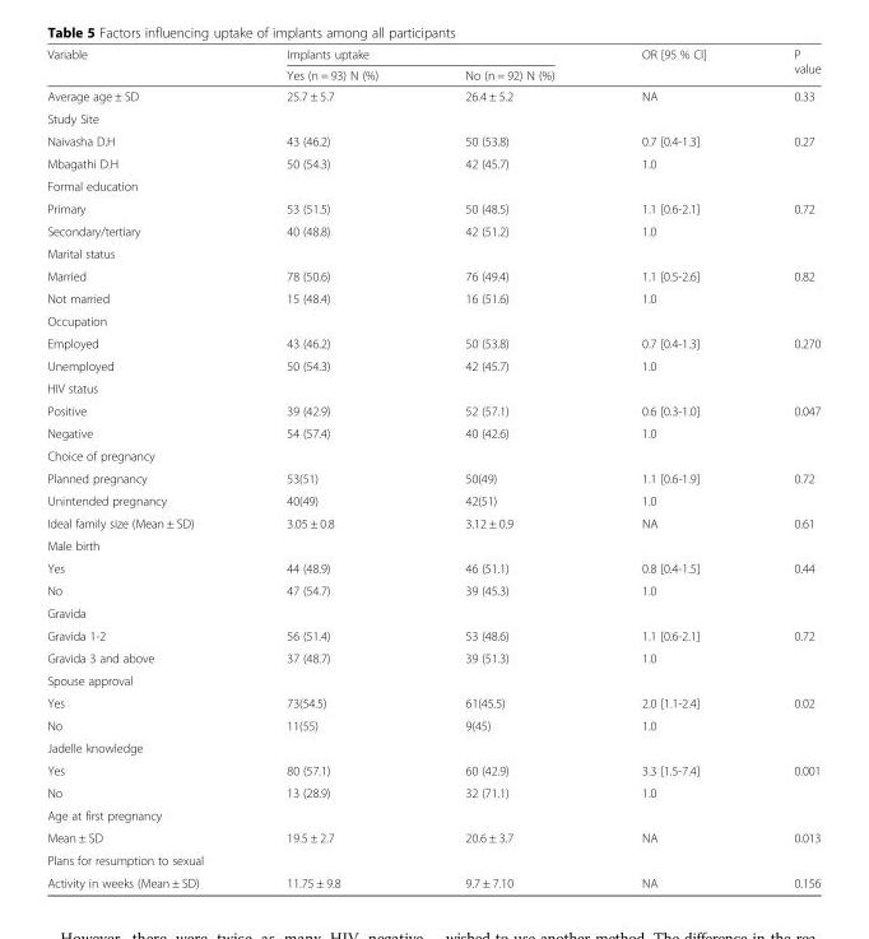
<table><thead><tr><td rowspan="2">Variable</td><td colspan="2">Implants uptake</td><td rowspan="2">OR [95 % CI]</td><td rowspan="2">P value</td></tr><tr><td>Yes (n = 93) N (%)</td><td>No (n = 92) N (%)</td></tr></thead><tbody><tr><td>Average age ± SD</td><td>25.7 ± 5.7</td><td>26.4 ± 5.2</td><td>NA</td><td>0.33</td></tr><tr><td colspan="5">Study Site</td></tr><tr><td>Naivasha D.H</td><td>43 (46.2)</td><td>50 (53.8)</td><td>0.7 [0.4-1.3]</td><td>0.27</td></tr><tr><td>Mbagathi D.H</td><td>50 (54.3)</td><td>42 (45.7)</td><td>1.0</td><td></td></tr><tr><td colspan="5">Formal education</td></tr><tr><td>Primary</td><td>53 (51.5)</td><td>50 (48.5)</td><td>1.1 [0.6-2.1]</td><td>0.72</td></tr><tr><td>Secondary/tertiary</td><td>40 (48.8)</td><td>42 (51.2)</td><td>1.0</td><td></td></tr><tr><td colspan="5">Marital status</td></tr><tr><td>Married</td><td>78 (50.6)</td><td>76 (49.4)</td><td>1.1 [0.5-2.6]</td><td>0.82</td></tr><tr><td>Not married</td><td>15 (48.4)</td><td>16 (51.6)</td><td>1.0</td><td></td></tr><tr><td colspan="5">Occupation</td></tr><tr><td>Employed</td><td>43 (46.2)</td><td>50 (53.8)</td><td>0.7 [0.4-1.3]</td><td>0.270</td></tr><tr><td>Unemployed</td><td>50 (54.3)</td><td>42 (45.7)</td><td>1.0</td><td></td></tr><tr><td colspan="5">HIV status</td></tr><tr><td>Positive</td><td>39 (42.9)</td><td>52 (57.1)</td><td>0.6 [0.3-1.0]</td><td>0.047</td></tr><tr><td>Negative</td><td>54 (57.4)</td><td>40 (42.6)</td><td>1.0</td><td></td></tr><tr><td colspan="5">Choice of pregnancy</td></tr><tr><td>Planned pregnancy</td><td>53(51)</td><td>50(49)</td><td>1.1 [0.6-1.9]</td><td>0.72</td></tr><tr><td>Unintended pregnancy</td><td>40(49)</td><td>42(51)</td><td>1.0</td><td></td></tr><tr><td>Ideal family size (Mean ± SD)</td><td>3.05 ± 0.8</td><td>3.12 ± 0.9</td><td>NA</td><td>0.61</td></tr><tr><td colspan="5">Male birth</td></tr><tr><td>Yes</td><td>44 (48.9)</td><td>46 (51.1)</td><td>0.8 [0.4-1.5]</td><td>0.44</td></tr><tr><td>No</td><td>47 (54.7)</td><td>39 (45.3)</td><td>1.0</td><td></td></tr><tr><td colspan="5">Gravida</td></tr><tr><td>Gravida 1-2</td><td>56 (51.4)</td><td>53 (48.6)</td><td>1.1 [0.6-2.1]</td><td>0.72</td></tr><tr><td>Gravida 3 and above</td><td>37 (48.7)</td><td>39 (51.3)</td><td>1.0</td><td></td></tr><tr><td colspan="5">Spouse approval</td></tr><tr><td>Yes</td><td>73(54.5)</td><td>61(45.5)</td><td>2.0 [1.1-2.4]</td><td>0.02</td></tr><tr><td>No</td><td>11(55)</td><td>9(45)</td><td>1.0</td><td></td></tr><tr><td colspan="5">Jadelle knowledge</td></tr><tr><td>Yes</td><td>80 (57.1)</td><td>60 (42.9)</td><td>3.3 [1.5-7.4]</td><td>0.001</td></tr><tr><td>No</td><td>13 (28.9)</td><td>32 (71.1)</td><td>1.0</td><td></td></tr><tr><td colspan="5">Age at first pregnancy</td></tr><tr><td>Mean ± SD</td><td>19.5 ± 2.7</td><td>20.6 ± 3.7</td><td>NA</td><td>0.013</td></tr><tr><td colspan="5">Plans for resumption to sexual</td></tr><tr><td>Activity in weeks (Mean ± SD)</td><td>11.75 ± 9.8</td><td>9.7 ± 7.10</td><td>NA</td><td>0.156</td></tr></tbody></table>